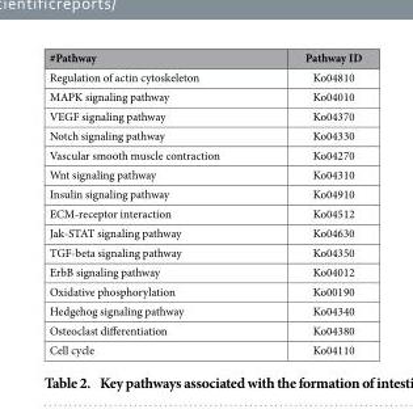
<table><thead><tr><td>#Pathway</td><td>Pathway ID</td></tr></thead><tbody><tr><td>Regulation of actin cytoskeleton</td><td>Ko04810</td></tr><tr><td>MAPK signaling pathway</td><td>Ko04010</td></tr><tr><td>VEGF signaling pathway</td><td>Ko04370</td></tr><tr><td>Notch signaling pathway</td><td>Ko04330</td></tr><tr><td>Vascular smooth muscle contraction</td><td>Ko04270</td></tr><tr><td>Wnt signaling pathway</td><td>Ko04310</td></tr><tr><td>Insulin signaling pathway</td><td>Ko04910</td></tr><tr><td>ECM-receptor interaction</td><td>Ko04512</td></tr><tr><td>Jak-STAT signaling pathway</td><td>Ko04630</td></tr><tr><td>TGF-beta signaling pathway</td><td>Ko04350</td></tr><tr><td>ErbB signaling pathway</td><td>Ko04012</td></tr><tr><td>Oxidative phosphorylation</td><td>Ko00190</td></tr><tr><td>Hedgehog signaling pathway</td><td>Ko04340</td></tr><tr><td>Osteoclast differentiation</td><td>Ko04380</td></tr><tr><td>Cell cycle</td><td>Ko04110</td></tr></tbody></table>